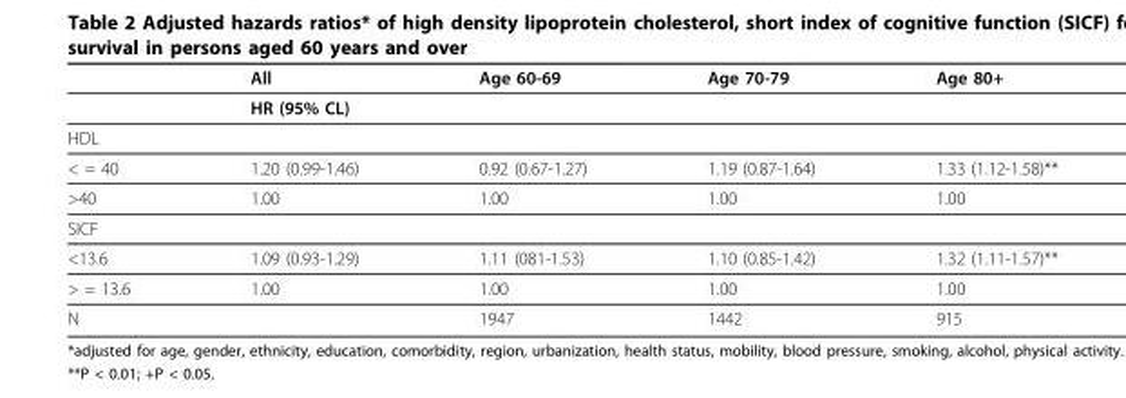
<table><thead><tr><td></td><td>All</td><td>Age 60-69</td><td>Age 70-79</td><td>Age 80+</td></tr></thead><tbody><tr><td></td><td colspan="4">HR (95% CL)</td></tr><tr><td colspan="5">HDL</td></tr><tr><td>&lt; = 40</td><td>1.20 (0.99-1.46)</td><td>0.92 (0.67-1.27)</td><td>1.19 (0.87-1.64)</td><td>1.33 (1.12-1.58)**</td></tr><tr><td>&gt;40</td><td>1.00</td><td>1.00</td><td>1.00</td><td>1.00</td></tr><tr><td colspan="5">SICF</td></tr><tr><td>&lt;13.6</td><td>1.09 (0.93-1.29)</td><td>1.11 (081-1.53)</td><td>1.10 (0.85-1.42)</td><td>1.32 (1.11-1.57)**</td></tr><tr><td>&gt; = 13.6</td><td>1.00</td><td>1.00</td><td>1.00</td><td>1.00</td></tr><tr><td>N</td><td></td><td>1947</td><td>1442</td><td>915</td></tr></tbody></table>